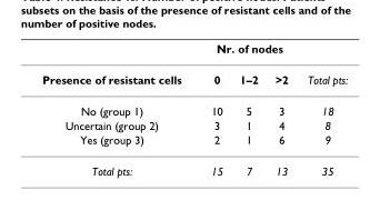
<table><thead><tr><td rowspan="2">Presence of resistant cells</td><td colspan="3">Nr. of nodes</td><td rowspan="2">Total pts:</td></tr><tr><td>0</td><td>1–2</td><td>&gt;2</td></tr></thead><tbody><tr><td>No (group 1)</td><td>10</td><td>5</td><td>3</td><td>18</td></tr><tr><td>Uncertain (group 2)</td><td>3</td><td>1</td><td>4</td><td>8</td></tr><tr><td>Yes (group 3)</td><td>2</td><td>1</td><td>6</td><td>9</td></tr><tr><td>Total pts:</td><td>15</td><td>7</td><td>13</td><td>35</td></tr></tbody></table>